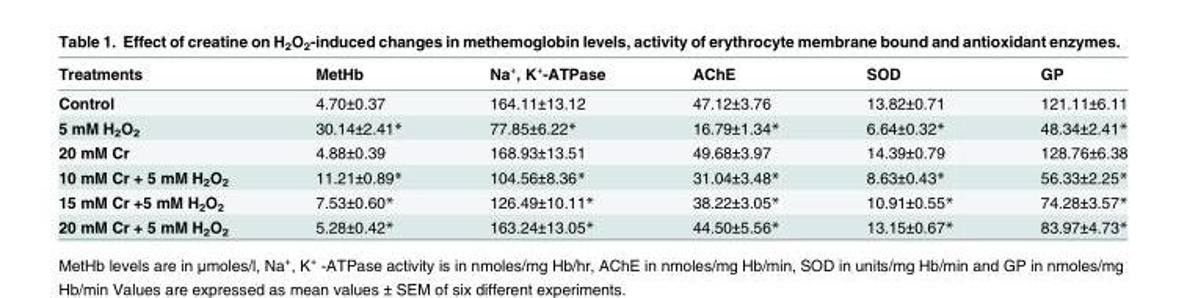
<table><thead><tr><td>Treatments</td><td>MetHb</td><td>Na⁺, K⁺-ATPase</td><td>AChE</td><td>SOD</td><td>GP</td></tr></thead><tbody><tr><td>Control</td><td>4.70±0.37</td><td>164.11±13.12</td><td>47.12±3.76</td><td>13.82±0.71</td><td>121.11±6.11</td></tr><tr><td>5 mM H<sub>2</sub>O<sub>2</sub></td><td>30.14±2.41*</td><td>77.85±6.22*</td><td>16.79±1.34*</td><td>6.64±0.32*</td><td>48.34±2.41*</td></tr><tr><td>20 mM Cr</td><td>4.88±0.39</td><td>168.93±13.51</td><td>49.68±3.97</td><td>14.39±0.79</td><td>128.76±6.38</td></tr><tr><td>10 mM Cr + 5 mM H<sub>2</sub>O<sub>2</sub></td><td>11.21±0.89*</td><td>104.56±8.36*</td><td>31.04±3.48*</td><td>8.63±0.43*</td><td>56.33±2.25*</td></tr><tr><td>15 mM Cr +5 mM H<sub>2</sub>O<sub>2</sub></td><td>7.53±0.60*</td><td>126.49±10.11*</td><td>38.22±3.05*</td><td>10.91±0.55*</td><td>74.28±3.57*</td></tr><tr><td>20 mM Cr + 5 mM H<sub>2</sub>O<sub>2</sub></td><td>5.28±0.42*</td><td>163.24±13.05*</td><td>44.50±5.56*</td><td>13.15±0.67*</td><td>83.97±4.73*</td></tr></tbody></table>